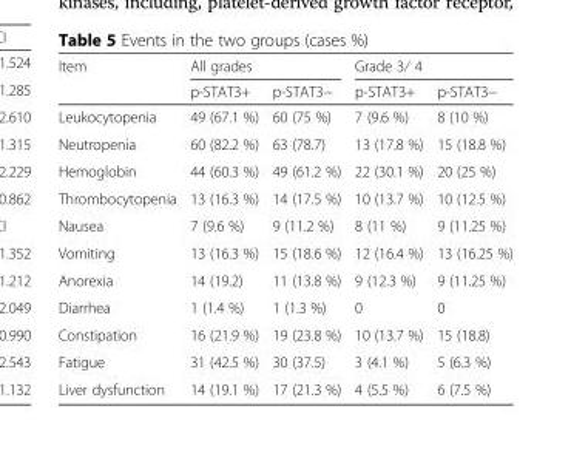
<table><thead><tr><td rowspan="2">Item</td><td colspan="2">All grades</td><td colspan="2">Grade 3⁄ 4</td></tr><tr><td>p-STAT3+</td><td>p-STAT3−</td><td>p-STAT3+</td><td>p-STAT3−</td></tr></thead><tbody><tr><td>Leukocytopenia</td><td>49 (67.1 %)</td><td>60 (75 %)</td><td>7 (9.6 %)</td><td>8 (10 %)</td></tr><tr><td>Neutropenia</td><td>60 (82.2 %)</td><td>63 (78.7)</td><td>13 (17.8 %)</td><td>15 (18.8 %)</td></tr><tr><td>Hemoglobin</td><td>44 (60.3 %)</td><td>49 (61.2 %)</td><td>22 (30.1 %)</td><td>20 (25 %)</td></tr><tr><td>Thrombocytopenia</td><td>13 (16.3 %)</td><td>14 (17.5 %)</td><td>10 (13.7 %)</td><td>10 (12.5 %)</td></tr><tr><td>Nausea</td><td>7 (9.6 %)</td><td>9 (11.2 %)</td><td>8 (11 %)</td><td>9 (11.25 %)</td></tr><tr><td>Vomiting</td><td>13 (16.3 %)</td><td>15 (18.6 %)</td><td>12 (16.4 %)</td><td>13 (16.25 %)</td></tr><tr><td>Anorexia</td><td>14 (19.2)</td><td>11 (13.8 %)</td><td>9 (12.3 %)</td><td>9 (11.25 %)</td></tr><tr><td>Diarrhea</td><td>1 (1.4 %)</td><td>1 (1.3 %)</td><td>0</td><td>0</td></tr><tr><td>Constipation</td><td>16 (21.9 %)</td><td>19 (23.8 %)</td><td>10 (13.7 %)</td><td>15 (18.8)</td></tr><tr><td>Fatigue</td><td>31 (42.5 %)</td><td>30 (37.5)</td><td>3 (4.1 %)</td><td>5 (6.3 %)</td></tr><tr><td>Liver dysfunction</td><td>14 (19.1 %)</td><td>17 (21.3 %)</td><td>4 (5.5 %)</td><td>6 (7.5 %)</td></tr></tbody></table>